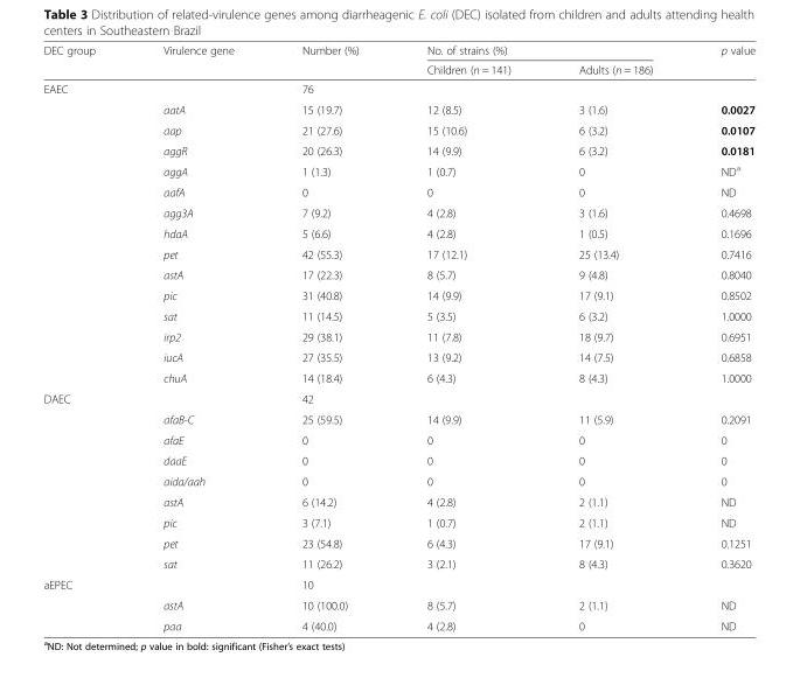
<table><thead><tr><td rowspan="2">DEC group</td><td rowspan="2">Virulence gene</td><td rowspan="2">Number (%)</td><td colspan="2">No. of strains (%)</td><td rowspan="2">p value</td></tr><tr><td>Children (n = 141)</td><td>Adults (n = 186)</td></tr></thead><tbody><tr><td rowspan="15">EAEC</td><td></td><td>76</td><td></td><td></td><td></td></tr><tr><td>aatA</td><td>15 (19.7)</td><td>12 (8.5)</td><td>3 (1.6)</td><td>0.0027</td></tr><tr><td>aap</td><td>21 (27.6)</td><td>15 (10.6)</td><td>6 (3.2)</td><td>0.0107</td></tr><tr><td>aggR</td><td>20 (26.3)</td><td>14 (9.9)</td><td>6 (3.2)</td><td>0.0181</td></tr><tr><td>aggA</td><td>1 (1.3)</td><td>1 (0.7)</td><td>0</td><td>ND<sup>a</sup></td></tr><tr><td>aafA</td><td>0</td><td>0</td><td>0</td><td>ND</td></tr><tr><td>agg3A</td><td>7 (9.2)</td><td>4 (2.8)</td><td>3 (1.6)</td><td>0.4698</td></tr><tr><td>hdaA</td><td>5 (6.6)</td><td>4 (2.8)</td><td>1 (0.5)</td><td>0.1696</td></tr><tr><td>pet</td><td>42 (55.3)</td><td>17 (12.1)</td><td>25 (13.4)</td><td>0.7416</td></tr><tr><td>astA</td><td>17 (22.3)</td><td>8 (5.7)</td><td>9 (4.8)</td><td>0.8040</td></tr><tr><td>pic</td><td>31 (40.8)</td><td>14 (9.9)</td><td>17 (9.1)</td><td>0.8502</td></tr><tr><td>sat</td><td>11 (14.5)</td><td>5 (3.5)</td><td>6 (3.2)</td><td>1.0000</td></tr><tr><td>irp2</td><td>29 (38.1)</td><td>11 (7.8)</td><td>18 (9.7)</td><td>0.6951</td></tr><tr><td>iucA</td><td>27 (35.5)</td><td>13 (9.2)</td><td>14 (7.5)</td><td>0.6858</td></tr><tr><td>chuA</td><td>14 (18.4)</td><td>6 (4.3)</td><td>8 (4.3)</td><td>1.0000</td></tr><tr><td rowspan="9">DAEC</td><td></td><td>42</td><td></td><td></td><td></td></tr><tr><td>afaB-C</td><td>25 (59.5)</td><td>14 (9.9)</td><td>11 (5.9)</td><td>0.2091</td></tr><tr><td>afaE</td><td>0</td><td>0</td><td>0</td><td>0</td></tr><tr><td>daaE</td><td>0</td><td>0</td><td>0</td><td>0</td></tr><tr><td>aida/aah</td><td>0</td><td>0</td><td>0</td><td>0</td></tr><tr><td>astA</td><td>6 (14.2)</td><td>4 (2.8)</td><td>2 (1.1)</td><td>ND</td></tr><tr><td>pic</td><td>3 (7.1)</td><td>1 (0.7)</td><td>2 (1.1)</td><td>ND</td></tr><tr><td>pet</td><td>23 (54.8)</td><td>6 (4.3)</td><td>17 (9.1)</td><td>0.1251</td></tr><tr><td>sat</td><td>11 (26.2)</td><td>3 (2.1)</td><td>8 (4.3)</td><td>0.3620</td></tr><tr><td rowspan="3">aEPEC</td><td></td><td>10</td><td></td><td></td><td></td></tr><tr><td>astA</td><td>10 (100.0)</td><td>8 (5.7)</td><td>2 (1.1)</td><td>ND</td></tr><tr><td>paa</td><td>4 (40.0)</td><td>4 (2.8)</td><td>0</td><td>ND</td></tr></tbody></table>